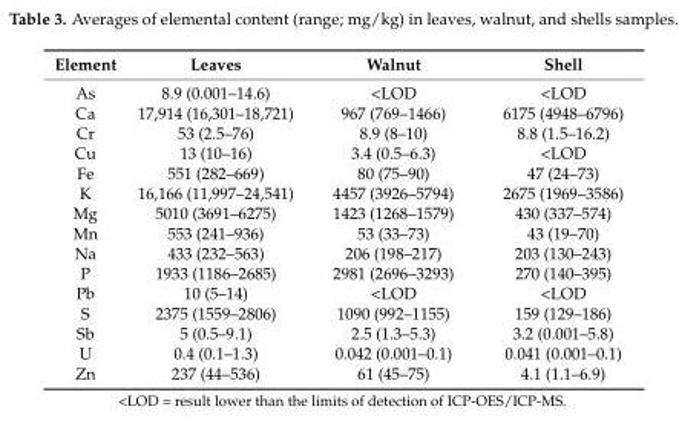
<table><thead><tr><td>Element</td><td>Leaves</td><td>Walnut</td><td>Shell</td></tr></thead><tbody><tr><td>As</td><td>8.9 (0.001–14.6)</td><td>&lt;LOD</td><td>&lt;LOD</td></tr><tr><td>Ca</td><td>17,914 (16,301–18,721)</td><td>967 (769–1466)</td><td>6175 (4948–6796)</td></tr><tr><td>Cr</td><td>53 (2.5–76)</td><td>8.9 (8–10)</td><td>8.8 (1.5–16.2)</td></tr><tr><td>Cu</td><td>13 (10–16)</td><td>3.4 (0.5–6.3)</td><td>&lt;LOD</td></tr><tr><td>Fe</td><td>551 (282–669)</td><td>80 (75–90)</td><td>47 (24–73)</td></tr><tr><td>K</td><td>16,166 (11,997–24,541)</td><td>4457 (3926–5794)</td><td>2675 (1969–3586)</td></tr><tr><td>Mg</td><td>5010 (3691–6275)</td><td>1423 (1268–1579)</td><td>430 (337–574)</td></tr><tr><td>Mn</td><td>553 (241–936)</td><td>53 (33–73)</td><td>43 (19–70)</td></tr><tr><td>Na</td><td>433 (232–563)</td><td>206 (198–217)</td><td>203 (130–243)</td></tr><tr><td>P</td><td>1933 (1186–2685)</td><td>2981 (2696–3293)</td><td>270 (140–395)</td></tr><tr><td>Pb</td><td>10 (5–14)</td><td>&lt;LOD</td><td>&lt;LOD</td></tr><tr><td>S</td><td>2375 (1559–2806)</td><td>1090 (992–1155)</td><td>159 (129–186)</td></tr><tr><td>Sb</td><td>5 (0.5–9.1)</td><td>2.5 (1.3–5.3)</td><td>3.2 (0.001–5.8)</td></tr><tr><td>U</td><td>0.4 (0.1–1.3)</td><td>0.042 (0.001–0.1)</td><td>0.041 (0.001–0.1)</td></tr><tr><td>Zn</td><td>237 (44–536)</td><td>61 (45–75)</td><td>4.1 (1.1–6.9)</td></tr></tbody></table>